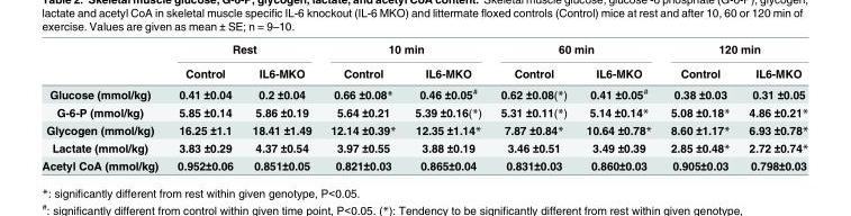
<table><thead><tr><td rowspan="2"></td><td colspan="2">Rest</td><td colspan="2">10 min</td><td colspan="2">60 min</td><td colspan="2">120 min</td></tr><tr><td>Control</td><td>IL6-MKO</td><td>Control</td><td>IL6-MKO</td><td>Control</td><td>IL6-MKO</td><td>Control</td><td>IL6-MKO</td></tr></thead><tbody><tr><td>Glucose (mmol/kg)</td><td>0.41 ±0.04</td><td>0.2 ±0.04</td><td>0.66 ±0.08*</td><td>0.46 ±0.05<sup>#</sup></td><td>0.62 ±0.08(*)</td><td>0.41 ±0.05<sup>#</sup></td><td>0.38 ±0.03</td><td>0.31 ±0.05</td></tr><tr><td>G-6-P (mmol/kg)</td><td>5.85 ±0.14</td><td>5.86 ±0.19</td><td>5.64 ±0.21</td><td>5.39 ±0.16(*)</td><td>5.31 ±0.11(*)</td><td>5.14 ±0.14*</td><td>5.08 ±0.18*</td><td>4.86 ±0.21*</td></tr><tr><td>Glycogen (mmol/kg)</td><td>16.25 ±1.1</td><td>18.41 ±1.49</td><td>12.14 ±0.39*</td><td>12.35 ±1.14*</td><td>7.87 ±0.84*</td><td>10.64 ±0.78*</td><td>8.60 ±1.17*</td><td>6.93 ±0.78*</td></tr><tr><td>Lactate (mmol/kg)</td><td>3.83 ±0.29</td><td>4.37 ±0.54</td><td>3.97 ±0.55</td><td>3.88 ±0.19</td><td>3.46 ±0.51</td><td>3.49 ±0.39</td><td>2.85 ±0.48*</td><td>2.72 ±0.74*</td></tr><tr><td>Acetyl CoA (mmol/kg)</td><td>0.952±0.06</td><td>0.851±0.05</td><td>0.821±0.03</td><td>0.865±0.04</td><td>0.831±0.03</td><td>0.860±0.03</td><td>0.905±0.03</td><td>0.798±0.03</td></tr></tbody></table>